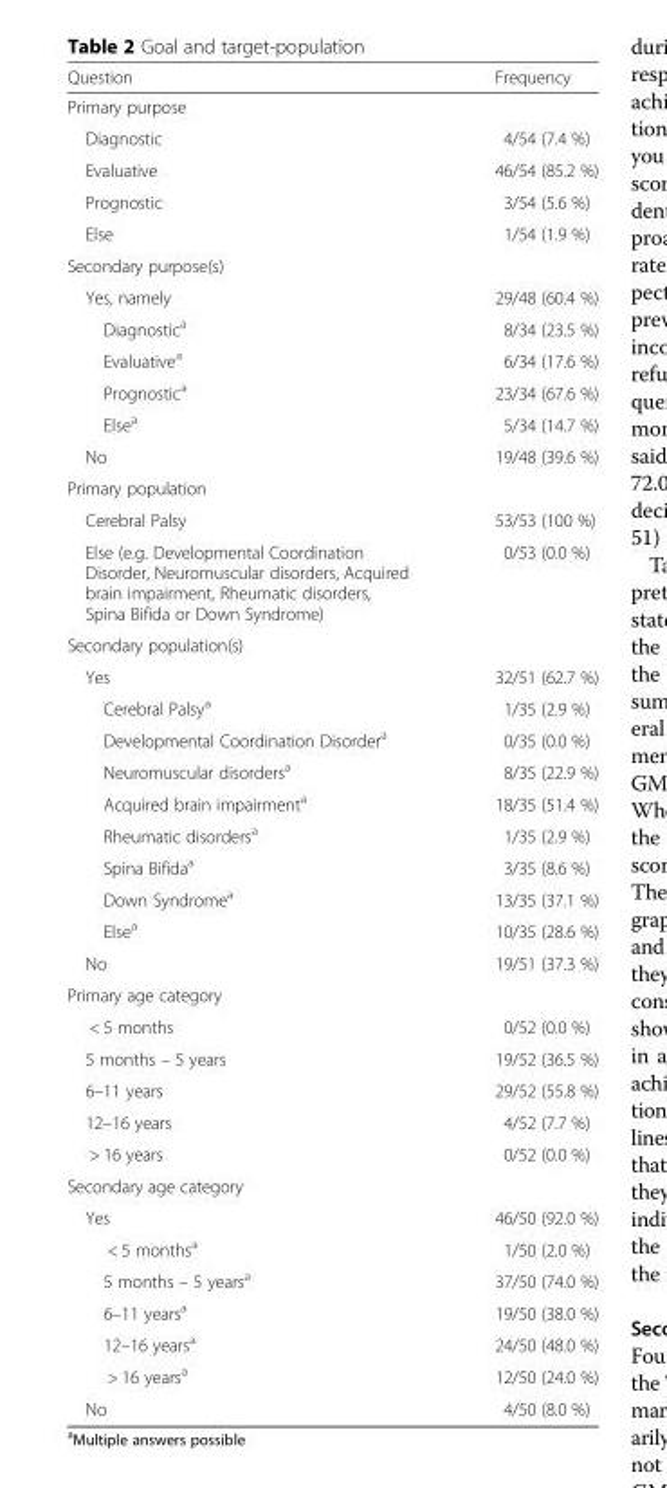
<table><thead><tr><td>Question</td><td>Frequency</td></tr></thead><tbody><tr><td colspan="2">Primary purpose</td></tr><tr><td>Diagnostic</td><td>4/54 (7.4 %)</td></tr><tr><td>Evaluative</td><td>46/54 (85.2 %)</td></tr><tr><td>Prognostic</td><td>3/54 (5.6 %)</td></tr><tr><td>Else</td><td>1/54 (1.9 %)</td></tr><tr><td colspan="2">Secondary purpose(s)</td></tr><tr><td>Yes, namely</td><td>29/48 (60.4 %)</td></tr><tr><td>Diagnostic<sup>a</sup></td><td>8/34 (23.5 %)</td></tr><tr><td>Evaluative<sup>a</sup></td><td>6/34 (17.6 %)</td></tr><tr><td>Prognostic<sup>a</sup></td><td>23/34 (67.6 %)</td></tr><tr><td>Else<sup>a</sup></td><td>5/34 (14.7 %)</td></tr><tr><td>No</td><td>19/48 (39.6 %)</td></tr><tr><td colspan="2">Primary population</td></tr><tr><td>Cerebral Palsy</td><td>53/53 (100 %)</td></tr><tr><td>Else (e.g. Developmental Coordination Disorder, Neuromuscular disorders, Acquired brain impairment, Rheumatic disorders, Spina Bifida or Down Syndrome)</td><td>0/53 (0.0 %)</td></tr><tr><td colspan="2">Secondary population(s)</td></tr><tr><td>Yes</td><td>32/51 (62.7 %)</td></tr><tr><td>Cerebral Palsy<sup>a</sup></td><td>1/35 (2.9 %)</td></tr><tr><td>Developmental Coordination Disorder<sup>a</sup></td><td>0/35 (0.0 %)</td></tr><tr><td>Neuromuscular disorders<sup>a</sup></td><td>8/35 (22.9 %)</td></tr><tr><td>Acquired brain impairment<sup>a</sup></td><td>18/35 (51.4 %)</td></tr><tr><td>Rheumatic disorders<sup>a</sup></td><td>1/35 (2.9 %)</td></tr><tr><td>Spina Bifida<sup>a</sup></td><td>3/35 (8.6 %)</td></tr><tr><td>Down Syndrome<sup>a</sup></td><td>13/35 (37.1 %)</td></tr><tr><td>Else<sup>a</sup></td><td>10/35 (28.6 %)</td></tr><tr><td>No</td><td>19/51 (37.3 %)</td></tr><tr><td colspan="2">Primary age category</td></tr><tr><td>&lt; 5 months</td><td>0/52 (0.0 %)</td></tr><tr><td>5 months – 5 years</td><td>19/52 (36.5 %)</td></tr><tr><td>6–11 years</td><td>29/52 (55.8 %)</td></tr><tr><td>12–16 years</td><td>4/52 (7.7 %)</td></tr><tr><td>&gt; 16 years</td><td>0/52 (0.0 %)</td></tr><tr><td colspan="2">Secondary age category</td></tr><tr><td>Yes</td><td>46/50 (92.0 %)</td></tr><tr><td>&lt; 5 months<sup>a</sup></td><td>1/50 (2.0 %)</td></tr><tr><td>5 months – 5 years<sup>a</sup></td><td>37/50 (74.0 %)</td></tr><tr><td>6–11 years<sup>a</sup></td><td>19/50 (38.0 %)</td></tr><tr><td>12–16 years<sup>a</sup></td><td>24/50 (48.0 %)</td></tr><tr><td>&gt; 16 years<sup>a</sup></td><td>12/50 (24.0 %)</td></tr><tr><td>No</td><td>4/50 (8.0 %)</td></tr></tbody></table>